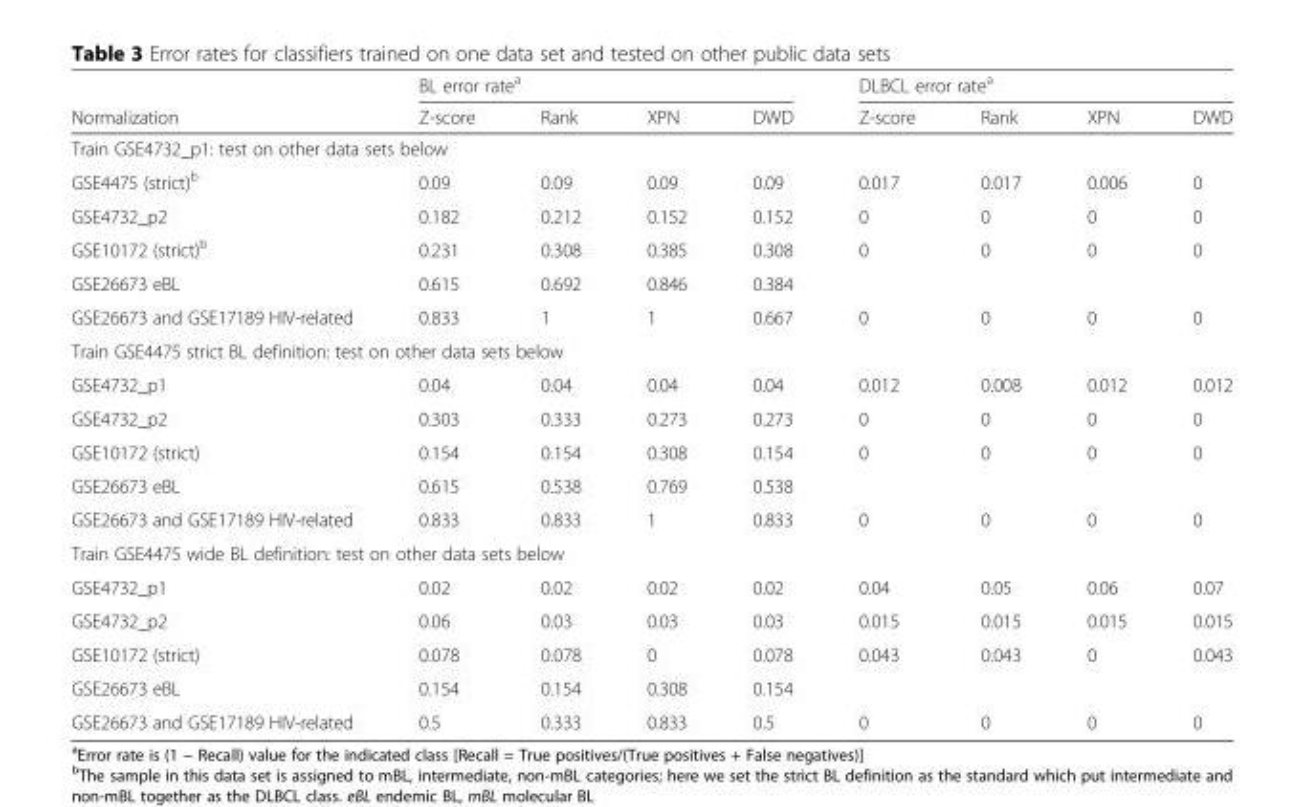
<table><thead><tr><td rowspan="2">Normalization</td><td colspan="4">BL error rate<sup>a</sup></td><td colspan="4">DLBCL error rate<sup>a</sup></td></tr><tr><td>Z-score</td><td>Rank</td><td>XPN</td><td>DWD</td><td>Z-score</td><td>Rank</td><td>XPN</td><td>DWD</td></tr></thead><tbody><tr><td colspan="9">Train GSE4732_p1: test on other data sets below</td></tr><tr><td>GSE4475 (strict)<sup>b</sup></td><td>0.09</td><td>0.09</td><td>0.09</td><td>0.09</td><td>0.017</td><td>0.017</td><td>0.006</td><td>0</td></tr><tr><td>GSE4732_p2</td><td>0.182</td><td>0.212</td><td>0.152</td><td>0.152</td><td>0</td><td>0</td><td>0</td><td>0</td></tr><tr><td>GSE10172 (strict)<sup>b</sup></td><td>0.231</td><td>0.308</td><td>0.385</td><td>0.308</td><td>0</td><td>0</td><td>0</td><td>0</td></tr><tr><td>GSE26673 eBL</td><td>0.615</td><td>0.692</td><td>0.846</td><td>0.384</td><td></td><td></td><td></td><td></td></tr><tr><td>GSE26673 and GSE17189 HIV-related</td><td>0.833</td><td>1</td><td>1</td><td>0.667</td><td>0</td><td>0</td><td>0</td><td>0</td></tr><tr><td colspan="9">Train GSE4475 strict BL definition: test on other data sets below</td></tr><tr><td>GSE4732_p1</td><td>0.04</td><td>0.04</td><td>0.04</td><td>0.04</td><td>0.012</td><td>0.008</td><td>0.012</td><td>0.012</td></tr><tr><td>GSE4732_p2</td><td>0.303</td><td>0.333</td><td>0.273</td><td>0.273</td><td>0</td><td>0</td><td>0</td><td>0</td></tr><tr><td>GSE10172 (strict)</td><td>0.154</td><td>0.154</td><td>0.308</td><td>0.154</td><td>0</td><td>0</td><td>0</td><td>0</td></tr><tr><td>GSE26673 eBL</td><td>0.615</td><td>0.538</td><td>0.769</td><td>0.538</td><td></td><td></td><td></td><td></td></tr><tr><td>GSE26673 and GSE17189 HIV-related</td><td>0.833</td><td>0.833</td><td>1</td><td>0.833</td><td>0</td><td>0</td><td>0</td><td>0</td></tr><tr><td colspan="9">Train GSE4475 wide BL definition: test on other data sets below</td></tr><tr><td>GSE4732_p1</td><td>0.02</td><td>0.02</td><td>0.02</td><td>0.02</td><td>0.04</td><td>0.05</td><td>0.06</td><td>0.07</td></tr><tr><td>GSE4732_p2</td><td>0.06</td><td>0.03</td><td>0.03</td><td>0.03</td><td>0.015</td><td>0.015</td><td>0.015</td><td>0.015</td></tr><tr><td>GSE10172 (strict)</td><td>0.078</td><td>0.078</td><td>0</td><td>0.078</td><td>0.043</td><td>0.043</td><td>0</td><td>0.043</td></tr><tr><td>GSE26673 eBL</td><td>0.154</td><td>0.154</td><td>0.308</td><td>0.154</td><td></td><td></td><td></td><td></td></tr><tr><td>GSE26673 and GSE17189 HIV-related</td><td>0.5</td><td>0.333</td><td>0.833</td><td>0.5</td><td>0</td><td>0</td><td>0</td><td>0</td></tr></tbody></table>